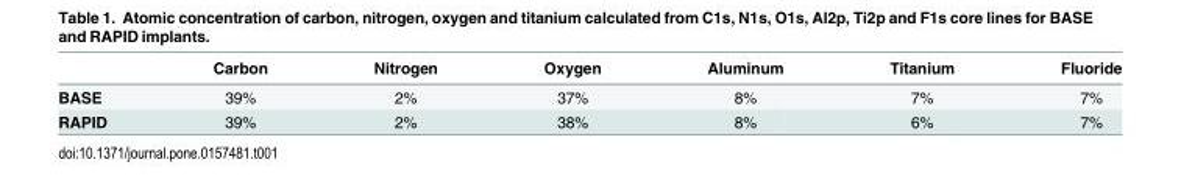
<table><thead><tr><td></td><td>Carbon</td><td>Nitrogen</td><td>Oxygen</td><td>Aluminum</td><td>Titanium</td><td>Fluoride</td></tr></thead><tbody><tr><td>BASE</td><td>39%</td><td>2%</td><td>37%</td><td>8%</td><td>7%</td><td>7%</td></tr><tr><td>RAPID</td><td>39%</td><td>2%</td><td>38%</td><td>8%</td><td>6%</td><td>7%</td></tr></tbody></table>